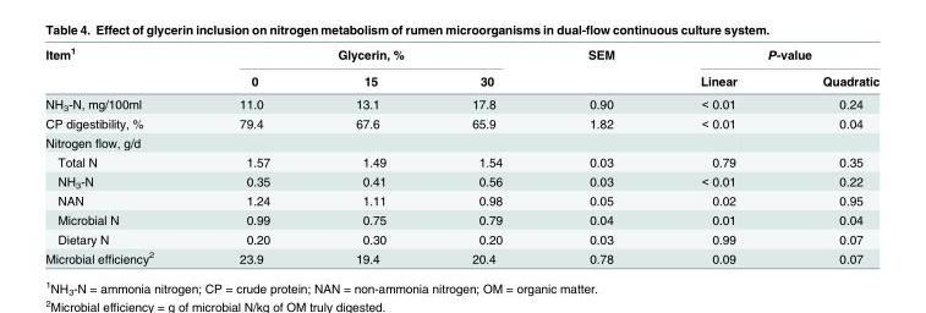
<table><thead><tr><td rowspan="2">Item<sup>1</sup></td><td colspan="3">Glycerin, %</td><td rowspan="2">SEM</td><td colspan="2">P-value</td></tr><tr><td>0</td><td>15</td><td>30</td><td>Linear</td><td>Quadratic</td></tr></thead><tbody><tr><td>NH<sub>3</sub>-N, mg/100ml</td><td>11.0</td><td>13.1</td><td>17.8</td><td>0.90</td><td>&lt; 0.01</td><td>0.24</td></tr><tr><td>CP digestibility, %</td><td>79.4</td><td>67.6</td><td>65.9</td><td>1.82</td><td>&lt; 0.01</td><td>0.04</td></tr><tr><td colspan="7">Nitrogen flow, g/d</td></tr><tr><td>Total N</td><td>1.57</td><td>1.49</td><td>1.54</td><td>0.03</td><td>0.79</td><td>0.35</td></tr><tr><td>NH<sub>3</sub>-N</td><td>0.35</td><td>0.41</td><td>0.56</td><td>0.03</td><td>&lt; 0.01</td><td>0.22</td></tr><tr><td>NAN</td><td>1.24</td><td>1.11</td><td>0.98</td><td>0.05</td><td>0.02</td><td>0.95</td></tr><tr><td>Microbial N</td><td>0.99</td><td>0.75</td><td>0.79</td><td>0.04</td><td>0.01</td><td>0.04</td></tr><tr><td>Dietary N</td><td>0.20</td><td>0.30</td><td>0.20</td><td>0.03</td><td>0.99</td><td>0.07</td></tr><tr><td>Microbial efficiency<sup>2</sup></td><td>23.9</td><td>19.4</td><td>20.4</td><td>0.78</td><td>0.09</td><td>0.07</td></tr></tbody></table>